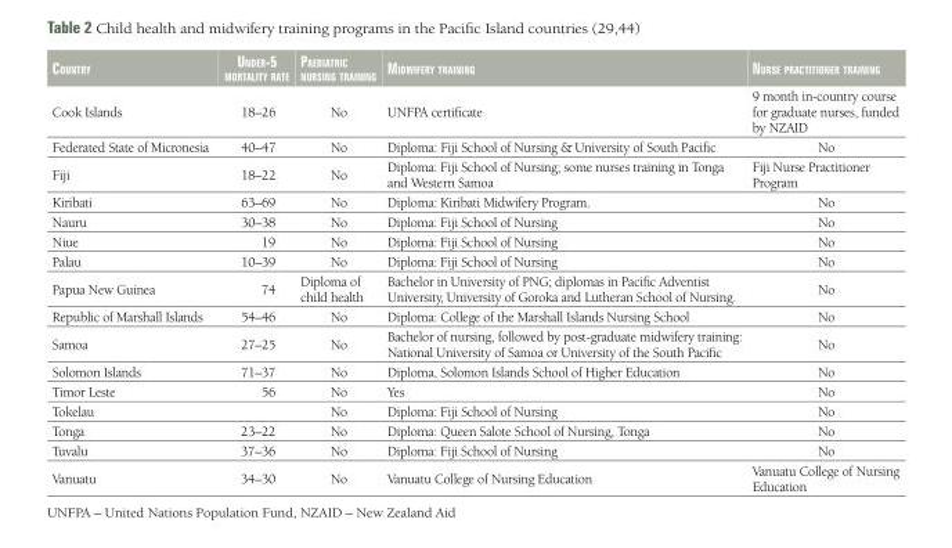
<table><thead><tr><td>countRy</td><td>undeR-5 moRtaLity Rate</td><td>paediatRic nuRsing tRaining</td><td>midwifeRy tRaining</td><td>nuRse pRactitioneR tRaining</td></tr></thead><tbody><tr><td>Cook Islands</td><td>18–26</td><td>No</td><td>UNFPA certificate</td><td>9 month in-country course for graduate nurses, funded by NZAID</td></tr><tr><td>Federated State of Micronesia</td><td>40–47</td><td>No</td><td>Diploma: Fiji School of Nursing &amp; University of South Pacific</td><td>No</td></tr><tr><td>Fiji</td><td>18–22</td><td>No</td><td>Diploma: Fiji School of Nursing; some nurses training in Tonga and Western Samoa</td><td>Fiji Nurse Practitioner Program</td></tr><tr><td>Kiribati</td><td>63–69</td><td>No</td><td>Diploma: Kiribati Midwifery Program.</td><td>No</td></tr><tr><td>Nauru</td><td>30–38</td><td>No</td><td>Diploma: Fiji School of Nursing</td><td>No</td></tr><tr><td>Niue</td><td>19</td><td>No</td><td>Diploma: Fiji School of Nursing</td><td>No</td></tr><tr><td>Palau</td><td>10–39</td><td>No</td><td>Diploma: Fiji School of Nursing</td><td>No</td></tr><tr><td>Papua New Guinea</td><td>74</td><td>Diploma of child health</td><td>Bachelor in University of PNG; diplomas in Pacific Adventist University, University of Goroka and Lutheran School of Nursing.</td><td>No</td></tr><tr><td>Republic of Marshall Islands</td><td>54–46</td><td>No</td><td>Diploma: College of the Marshall Islands Nursing School</td><td>No</td></tr><tr><td>Samoa</td><td>27–25</td><td>No</td><td>Bachelor of nursing, followed by post-graduate midwifery training: National University of Samoa or University of the South Pacific</td><td>No</td></tr><tr><td>Solomon Islands</td><td>71–37</td><td>No</td><td>Diploma, Solomon Islands School of Higher Education</td><td>No</td></tr><tr><td>Timor Leste</td><td>56</td><td>No</td><td>Yes</td><td>No</td></tr><tr><td>Tokelau</td><td></td><td>No</td><td>Diploma: Fiji School of Nursing</td><td>No</td></tr><tr><td>Tonga</td><td>23–22</td><td>No</td><td>Diploma: Queen Salote School of Nursing, Tonga</td><td>No</td></tr><tr><td>Tuvalu</td><td>37–36</td><td>No</td><td>Diploma: Fiji School of Nursing</td><td>No</td></tr><tr><td>Vanuatu</td><td>34–30</td><td>No</td><td>Vanuatu College of Nursing Education</td><td>Vanuatu College of Nursing Education</td></tr></tbody></table>